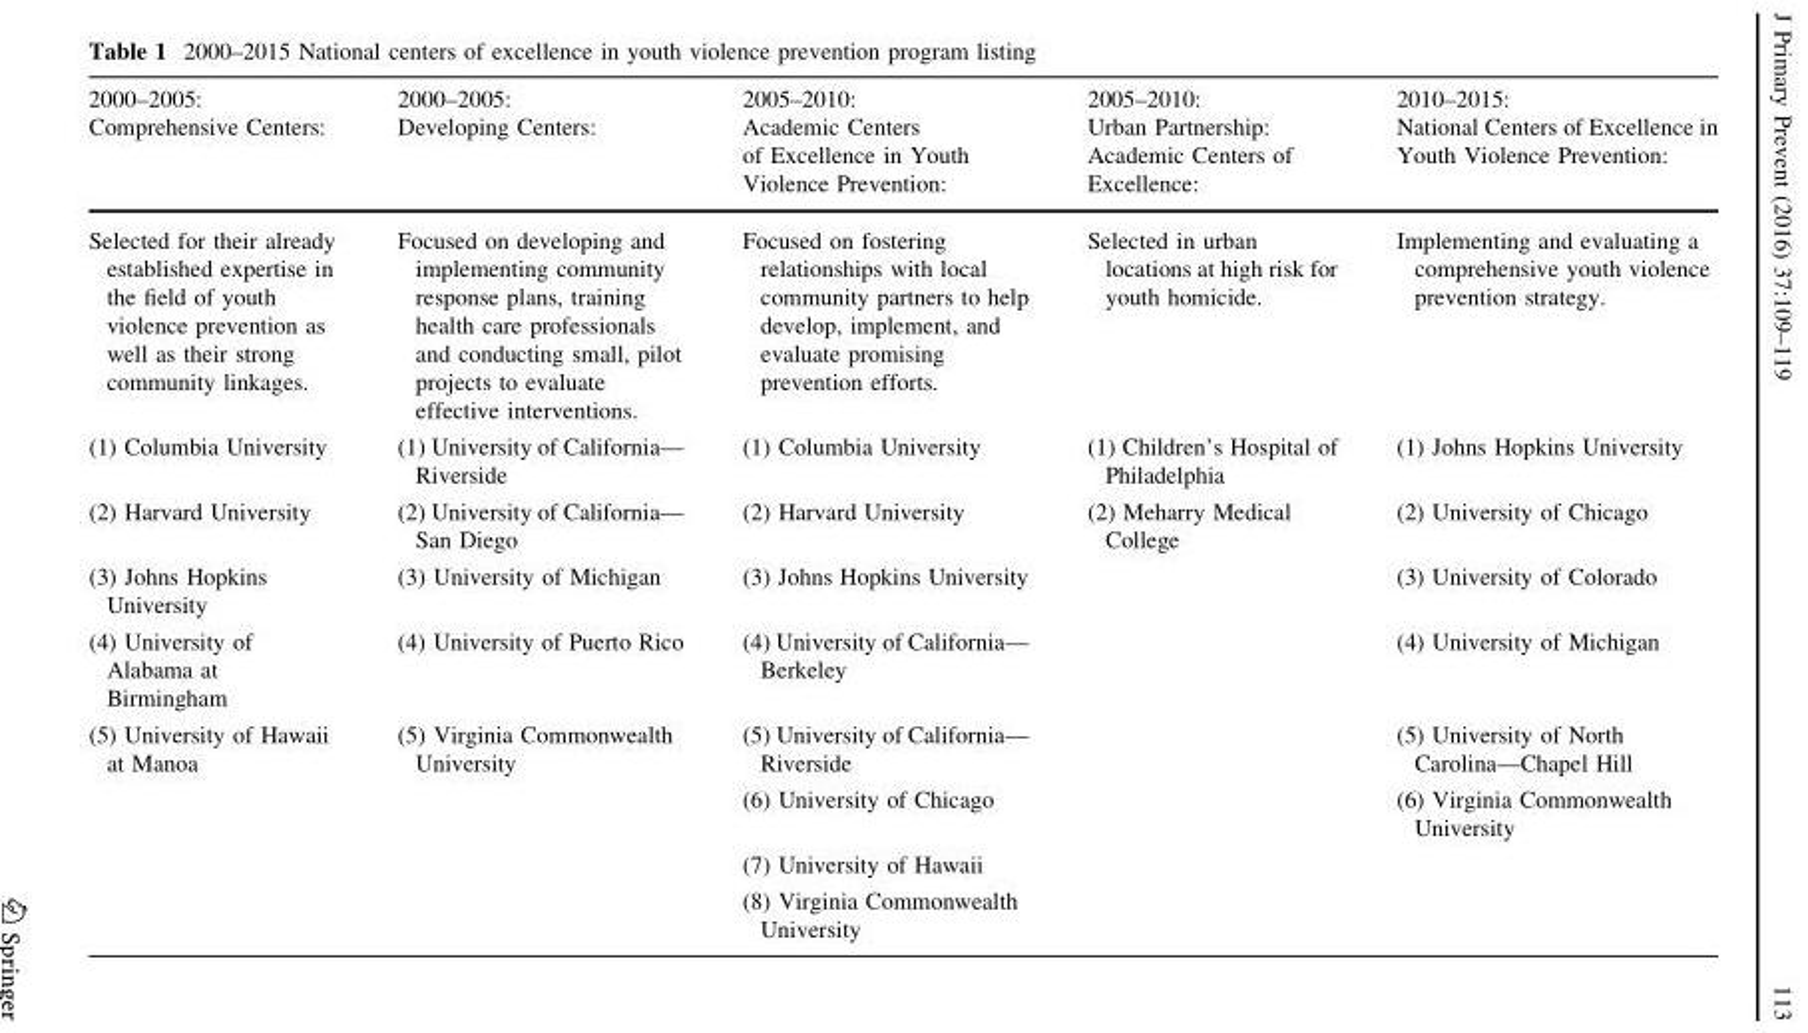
<table><thead><tr><td>2000–2005: Comprehensive Centers:</td><td>2000–2005: Developing Centers:</td><td>2005–2010: Academic Centers of Excellence in Youth Violence Prevention:</td><td>2005–2010: Urban Partnership: Academic Centers of Excellence:</td><td>2010–2015: National Centers of Excellence in Youth Violence Prevention:</td></tr></thead><tbody><tr><td>Selected for their already established expertise in the field of youth violence prevention as well as their strong community linkages.</td><td>Focused on developing and implementing community response plans, training health care professionals and conducting small, pilot projects to evaluate effective interventions.</td><td>Focused on fostering relationships with local community partners to help develop, implement, and evaluate promising prevention efforts.</td><td>Selected in urban locations at high risk for youth homicide.</td><td>Implementing and evaluating a comprehensive youth violence prevention strategy.</td></tr><tr><td>(1) Columbia University</td><td>(1) University of California— Riverside</td><td>(1) Columbia University</td><td>(1) Children’s Hospital of Philadelphia</td><td>(1) Johns Hopkins University</td></tr><tr><td>(2) Harvard University</td><td>(2) University of California— San Diego</td><td>(2) Harvard University</td><td>(2) Meharry Medical College</td><td>(2) University of Chicago</td></tr><tr><td>(3) Johns Hopkins University</td><td>(3) University of Michigan</td><td>(3) Johns Hopkins University</td><td></td><td>(3) University of Colorado</td></tr><tr><td>(4) University of Alabama at Birmingham</td><td>(4) University of Puerto Rico</td><td>(4) University of California— Berkeley</td><td></td><td>(4) University of Michigan</td></tr><tr><td rowspan="4">(5) University of Hawaii at Manoa</td><td>(5) Virginia Commonwealth University</td><td>(5) University of California— Riverside</td><td></td><td>(5) University of North Carolina—Chapel Hill</td></tr><tr><td></td><td>(6) University of Chicago</td><td></td><td>(6) Virginia Commonwealth University</td></tr><tr><td></td><td>(7) University of Hawaii</td><td></td><td></td></tr><tr><td></td><td>(8) Virginia Commonwealth University</td><td></td><td></td></tr></tbody></table>